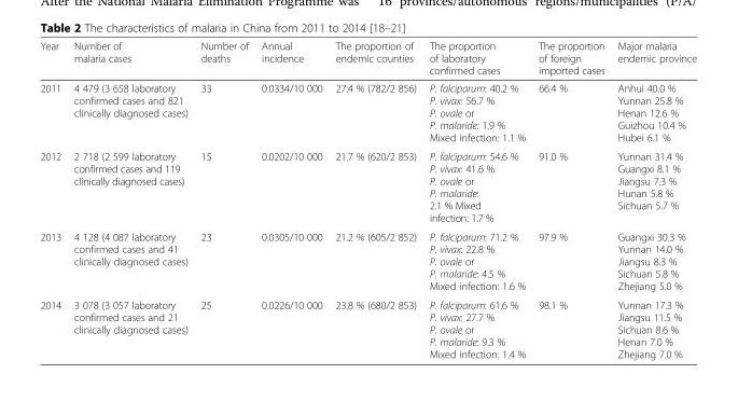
<table><thead><tr><td>Year</td><td>Number of malaria cases</td><td>Number of deaths</td><td>Annual incidence</td><td>The proportion of endemic counties</td><td>The proportion of laboratory confirmed cases</td><td>The proportion of foreign imported cases</td><td>Major malaria endemic province</td></tr></thead><tbody><tr><td>2011</td><td>4 479 (3 658 laboratory confirmed cases and 821 clinically diagnosed cases)</td><td>33</td><td>0.0334/10 000</td><td>27.4 % (782/2 856)</td><td>P. falciparum: 40.2 % P. vivax: 56.7 % P. ovale or P. malaride: 1.9 % Mixed infection: 1.1 %</td><td>66.4 %</td><td>Anhui 40.0 % Yunnan 25.8 % Henan 12.6 % Guizhou 10.4 % Hubei 6.1 %</td></tr><tr><td>2012</td><td>2 718 (2 599 laboratory confirmed cases and 119 clinically diagnosed cases)</td><td>15</td><td>0.0202/10 000</td><td>21.7 % (620/2 853)</td><td>P. falciparum: 54.6 % P. vivax: 41.6 % P. ovale or P. malaride: 2.1 % Mixed infection: 1.7 %</td><td>91.0 %</td><td>Yunnan 31.4 % Guangxi 8.1 % Jiangsu 7.3 % Hunan 5.8 % Sichuan 5.7 %</td></tr><tr><td>2013</td><td>4 128 (4 087 laboratory confirmed cases and 41 clinically diagnosed cases)</td><td>23</td><td>0.0305/10 000</td><td>21.2 % (605/2 852)</td><td>P. falciparum: 71.2 % P. vivax: 22.8 % P. ovale or P. malaride: 4.5 % Mixed infection: 1.6 %</td><td>97.9 %</td><td>Guangxi 30.3 % Yunnan 14.0 % Jiangsu 8.3 % Sichuan 5.8 % Zhejiang 5.0 %</td></tr><tr><td>2014</td><td>3 078 (3 057 laboratory confirmed cases and 21 clinically diagnosed cases)</td><td>25</td><td>0.0226/10 000</td><td>23.8 % (680/2 853)</td><td>P. falciparum: 61.6 % P. vivax: 27.7 % P. ovale or P. malaride: 9.3 % Mixed infection: 1.4 %</td><td>98.1 %</td><td>Yunnan 17.3 % Jiangsu 11.5 % Sichuan 8.6 % Henan 7.0 % Zhejiang 7.0 %</td></tr></tbody></table>